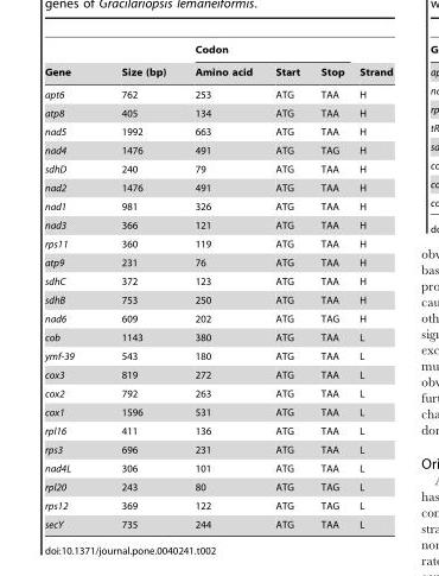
<table><thead><tr><td rowspan="2">Gene</td><td rowspan="2">Size (bp)</td><td colspan="3">Codon</td><td rowspan="2">Strand</td></tr><tr><td>Amino acid</td><td>Start</td><td>Stop</td></tr></thead><tbody><tr><td>apt6</td><td>762</td><td>253</td><td>ATG</td><td>TAA</td><td>H</td></tr><tr><td>atp8</td><td>405</td><td>134</td><td>ATG</td><td>TAA</td><td>H</td></tr><tr><td>nad5</td><td>1992</td><td>663</td><td>ATG</td><td>TAA</td><td>H</td></tr><tr><td>nad4</td><td>1476</td><td>491</td><td>ATG</td><td>TAG</td><td>H</td></tr><tr><td>sdhD</td><td>240</td><td>79</td><td>ATG</td><td>TAA</td><td>H</td></tr><tr><td>nad2</td><td>1476</td><td>491</td><td>ATG</td><td>TAA</td><td>H</td></tr><tr><td>nad1</td><td>981</td><td>326</td><td>ATG</td><td>TAA</td><td>H</td></tr><tr><td>nad3</td><td>366</td><td>121</td><td>ATG</td><td>TAA</td><td>H</td></tr><tr><td>rps11</td><td>360</td><td>119</td><td>ATG</td><td>TAA</td><td>H</td></tr><tr><td>atp9</td><td>231</td><td>76</td><td>ATG</td><td>TAA</td><td>H</td></tr><tr><td>sdhC</td><td>372</td><td>123</td><td>ATG</td><td>TAA</td><td>H</td></tr><tr><td>sdhB</td><td>753</td><td>250</td><td>ATG</td><td>TAA</td><td>H</td></tr><tr><td>nad6</td><td>609</td><td>202</td><td>ATG</td><td>TAG</td><td>H</td></tr><tr><td>cob</td><td>1143</td><td>380</td><td>ATG</td><td>TAA</td><td>L</td></tr><tr><td>ymf-39</td><td>543</td><td>180</td><td>ATG</td><td>TAA</td><td>L</td></tr><tr><td>cox3</td><td>819</td><td>272</td><td>ATG</td><td>TAA</td><td>L</td></tr><tr><td>cox2</td><td>792</td><td>263</td><td>ATG</td><td>TAA</td><td>L</td></tr><tr><td>cox1</td><td>1596</td><td>531</td><td>ATG</td><td>TAA</td><td>L</td></tr><tr><td>rpl16</td><td>411</td><td>136</td><td>ATG</td><td>TAA</td><td>L</td></tr><tr><td>rps3</td><td>696</td><td>231</td><td>ATG</td><td>TAA</td><td>L</td></tr><tr><td>nad4L</td><td>306</td><td>101</td><td>ATG</td><td>TAA</td><td>L</td></tr><tr><td>rpl20</td><td>243</td><td>80</td><td>ATG</td><td>TAG</td><td>L</td></tr><tr><td>rps12</td><td>369</td><td>122</td><td>ATG</td><td>TAG</td><td>L</td></tr><tr><td>secY</td><td>735</td><td>244</td><td>ATG</td><td>TAA</td><td>L</td></tr></tbody></table>